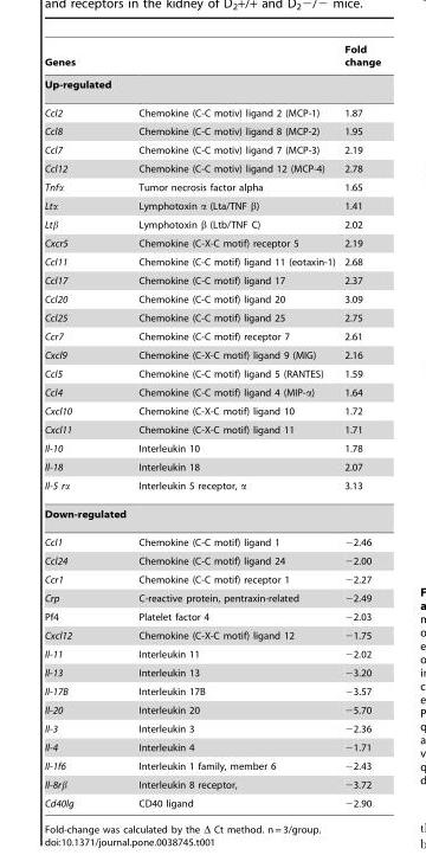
<table><thead><tr><td>Genes</td><td></td><td>Fold change</td></tr></thead><tbody><tr><td colspan="3">Up-regulated</td></tr><tr><td>Ccl2</td><td>Chemokine (C-C motiv) ligand 2 (MCP-1)</td><td>1.87</td></tr><tr><td>Ccl8</td><td>Chemokine (C-C motiv) ligand 8 (MCP-2)</td><td>1.95</td></tr><tr><td>Ccl7</td><td>Chemokine (C-C motiv) ligand 7 (MCP-3)</td><td>2.19</td></tr><tr><td>Ccl12</td><td>Chemokine (C-C motiv) ligand 12 (MCP-4)</td><td>2.78</td></tr><tr><td>Tnfα</td><td>Tumor necrosis factor alpha</td><td>1.65</td></tr><tr><td>Ltα</td><td>Lymphotoxin α (Lta/TNF β)</td><td>1.41</td></tr><tr><td>Ltβ</td><td>Lymphotoxin β (Ltb/TNF C)</td><td>2.02</td></tr><tr><td>Cxcr5</td><td>Chemokine (C-X-C motif) receptor 5</td><td>2.19</td></tr><tr><td>Ccl11</td><td>Chemokine (C-C motif) ligand 11 (eotaxin-1)</td><td>2.68</td></tr><tr><td>Ccl17</td><td>Chemokine (C-C motif) ligand 17</td><td>2.37</td></tr><tr><td>Ccl20</td><td>Chemokine (C-C motif) ligand 20</td><td>3.09</td></tr><tr><td>Ccl25</td><td>Chemokine (C-C motif) ligand 25</td><td>2.75</td></tr><tr><td>Ccr7</td><td>Chemokine (C-C motif) receptor 7</td><td>2.61</td></tr><tr><td>Cxcl9</td><td>Chemokine (C-X-C motif) ligand 9 (MIG)</td><td>2.16</td></tr><tr><td>Ccl5</td><td>Chemokine (C-C motif) ligand 5 (RANTES)</td><td>1.59</td></tr><tr><td>Ccl4</td><td>Chemokine (C-C motif) ligand 4 (MIP-α)</td><td>1.64</td></tr><tr><td>Cxcl10</td><td>Chemokine (C-X-C motif) ligand 10</td><td>1.72</td></tr><tr><td>Cxcl11</td><td>Chemokine (C-X-C motif) ligand 11</td><td>1.71</td></tr><tr><td>Il-10</td><td>Interleukin 10</td><td>1.78</td></tr><tr><td>Il-18</td><td>Interleukin 18</td><td>2.07</td></tr><tr><td>Il-5 rα</td><td>Interleukin 5 receptor, α</td><td>3.13</td></tr><tr><td colspan="3">Down-regulated</td></tr><tr><td>Ccl1</td><td>Chemokine (C-C motif) ligand 1</td><td>−2.46</td></tr><tr><td>Ccl24</td><td>Chemokine (C-C motif) ligand 24</td><td>−2.00</td></tr><tr><td>Ccr1</td><td>Chemokine (C-C motif) receptor 1</td><td>−2.27</td></tr><tr><td>Crp</td><td>C-reactive protein, pentraxin-related</td><td>−2.49</td></tr><tr><td>Pf4</td><td>Platelet factor 4</td><td>−2.03</td></tr><tr><td>Cxcl12</td><td>Chemokine (C-X-C motif) ligand 12</td><td>−1.75</td></tr><tr><td>Il-11</td><td>Interleukin 11</td><td>−2.02</td></tr><tr><td>Il-13</td><td>Interleukin 13</td><td>−3.20</td></tr><tr><td>Il-17B</td><td>Interleukin 17B</td><td>−3.57</td></tr><tr><td>Il-20</td><td>Interleukin 20</td><td>−5.70</td></tr><tr><td>Il-3</td><td>Interleukin 3</td><td>−2.36</td></tr><tr><td>Il-4</td><td>Interleukin 4</td><td>−1.71</td></tr><tr><td>Il-1f6</td><td>Interleukin 1 family, member 6</td><td>−2.43</td></tr><tr><td>Il-8rβ</td><td>Interleukin 8 receptor,</td><td>−3.72</td></tr><tr><td>Cd40lg</td><td>CD40 ligand</td><td>−2.90</td></tr></tbody></table>